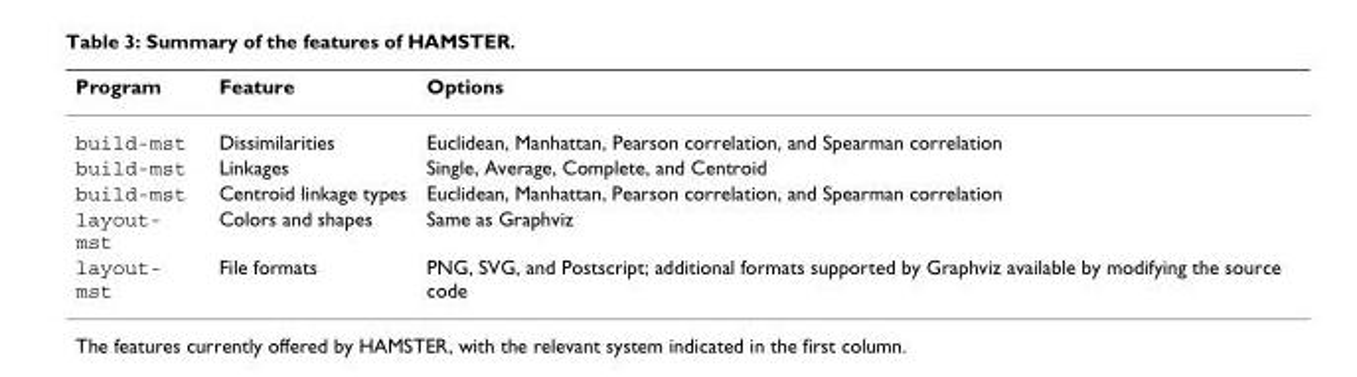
<table><thead><tr><td>Program</td><td>Feature</td><td>Options</td></tr></thead><tbody><tr><td>build-mst</td><td>Dissimilarities</td><td>Euclidean, Manhattan, Pearson correlation, and Spearman correlation</td></tr><tr><td>build-mst</td><td>Linkages</td><td>Single, Average, Complete, and Centroid</td></tr><tr><td>build-mst</td><td>Centroid linkage types</td><td>Euclidean, Manhattan, Pearson correlation, and Spearman correlation</td></tr><tr><td>layout- mst</td><td>Colors and shapes</td><td>Same as Graphviz</td></tr><tr><td>layout- mst</td><td>File formats</td><td>PNG, SVG, and Postscript; additional formats supported by Graphviz available by modifying the source code</td></tr></tbody></table>